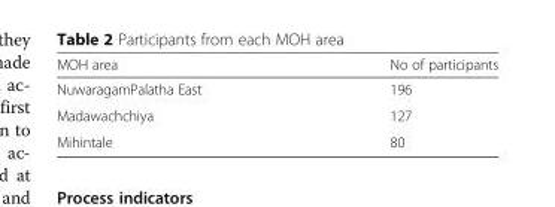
<table><thead><tr><td>MOH area</td><td>No of participants</td></tr></thead><tbody><tr><td>NuwaragamPalatha East</td><td>196</td></tr><tr><td>Madawachchiya</td><td>127</td></tr><tr><td>Mihintale</td><td>80</td></tr></tbody></table>